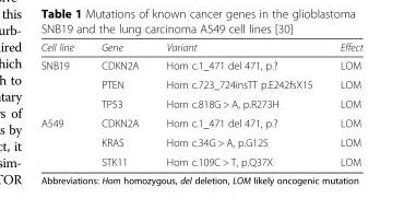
<table><thead><tr><td>Cell line</td><td>Gene</td><td>Variant</td><td>Effect</td></tr></thead><tbody><tr><td rowspan="3">SNB19</td><td>CDKN2A</td><td>Hom c.1_471 del 471, p.?</td><td>LOM</td></tr><tr><td>PTEN</td><td>Hom c.723_724insTT p.E242fsX15</td><td>LOM</td></tr><tr><td>TP53</td><td>Hom c.818G &gt; A, p.R273H</td><td>LOM</td></tr><tr><td rowspan="3">A549</td><td>CDKN2A</td><td>Hom c.1_471 del 471, p.?</td><td>LOM</td></tr><tr><td>KRAS</td><td>Hom c.34G &gt; A, p.G12S</td><td>LOM</td></tr><tr><td>STK11</td><td>Hom c.109C &gt; T, p.Q37X</td><td>LOM</td></tr></tbody></table>